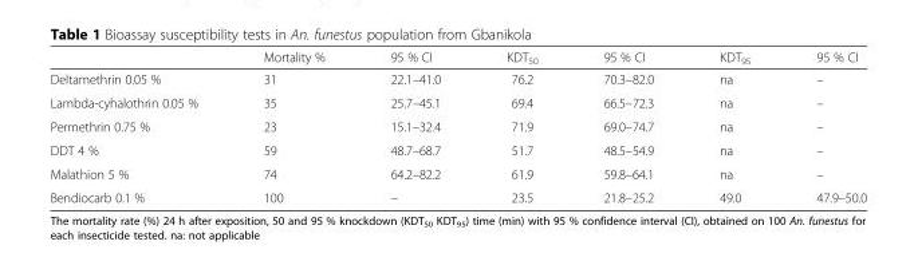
<table><thead><tr><td></td><td>Mortality %</td><td>95 % CI</td><td>KDT<sub>50</sub></td><td>95 % CI</td><td>KDT<sub>95</sub></td><td>95 % CI</td></tr></thead><tbody><tr><td>Deltamethrin 0.05 %</td><td>31</td><td>22.1–41.0</td><td>76.2</td><td>70.3–82.0</td><td>na</td><td>–</td></tr><tr><td>Lambda-cyhalothrin 0.05 %</td><td>35</td><td>25.7–45.1</td><td>69.4</td><td>66.5–72.3</td><td>na</td><td>–</td></tr><tr><td>Permethrin 0.75 %</td><td>23</td><td>15.1–32.4</td><td>71.9</td><td>69.0–74.7</td><td>na</td><td>–</td></tr><tr><td>DDT 4 %</td><td>59</td><td>48.7–68.7</td><td>51.7</td><td>48.5–54.9</td><td>na</td><td>–</td></tr><tr><td>Malathion 5 %</td><td>74</td><td>64.2–82.2</td><td>61.9</td><td>59.8–64.1</td><td>na</td><td>–</td></tr><tr><td>Bendiocarb 0.1 %</td><td>100</td><td>–</td><td>23.5</td><td>21.8–25.2</td><td>49.0</td><td>47.9–50.0</td></tr></tbody></table>